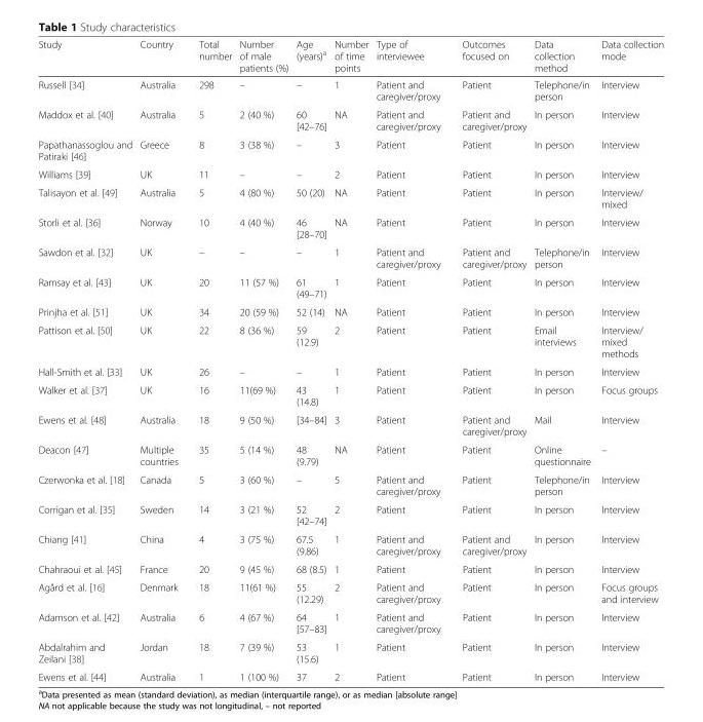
<table><thead><tr><td>Study</td><td>Country</td><td>Total number</td><td>Number of male patients (%)</td><td>Age (years)<sup>a</sup></td><td>Number of time points</td><td>Type of interviewee</td><td>Outcomes focused on</td><td>Data collection method</td><td>Data collection mode</td></tr></thead><tbody><tr><td>Russell [34]</td><td>Australia</td><td>298</td><td>–</td><td>–</td><td>1</td><td>Patient and caregiver/proxy</td><td>Patient</td><td>Telephone/in person</td><td>Interview</td></tr><tr><td>Maddox et al. [40]</td><td>Australia</td><td>5</td><td>2 (40 %)</td><td>60 [42–76]</td><td>NA</td><td>Patient and caregiver/proxy</td><td>Patient and caregiver/proxy</td><td>In person</td><td>Interview</td></tr><tr><td>Papathanassoglou and Patiraki [46]</td><td>Greece</td><td>8</td><td>3 (38 %)</td><td>–</td><td>3</td><td>Patient</td><td>Patient</td><td>In person</td><td>Interview</td></tr><tr><td>Williams [39]</td><td>UK</td><td>11</td><td>–</td><td>–</td><td>2</td><td>Patient</td><td>Patient</td><td>In person</td><td>Interview</td></tr><tr><td>Talisayon et al. [49]</td><td>Australia</td><td>5</td><td>4 (80 %)</td><td>50 (20)</td><td>NA</td><td>Patient</td><td>Patient</td><td>In person</td><td>Interview/ mixed</td></tr><tr><td>Storli et al. [36]</td><td>Norway</td><td>10</td><td>4 (40 %)</td><td>46 [28–70]</td><td>NA</td><td>Patient</td><td>Patient</td><td>In person</td><td>Interview</td></tr><tr><td>Sawdon et al. [32]</td><td>UK</td><td>–</td><td>–</td><td>–</td><td>1</td><td>Patient and caregiver/proxy</td><td>Patient and caregiver/proxy</td><td>Telephone/in person</td><td>Interview</td></tr><tr><td>Ramsay et al. [43]</td><td>UK</td><td>20</td><td>11 (57 %)</td><td>61 (49–71)</td><td>1</td><td>Patient</td><td>Patient</td><td>In person</td><td>Interview</td></tr><tr><td>Prinjha et al. [51]</td><td>UK</td><td>34</td><td>20 (59 %)</td><td>52 (14)</td><td>NA</td><td>Patient</td><td>Patient</td><td>In person</td><td>Interview</td></tr><tr><td>Pattison et al. [50]</td><td>UK</td><td>22</td><td>8 (36 %)</td><td>59 (12.9)</td><td>2</td><td>Patient</td><td>Patient</td><td>Email interviews</td><td>Interview/ mixed methods</td></tr><tr><td>Hall-Smith et al. [33]</td><td>UK</td><td>26</td><td>–</td><td>–</td><td>1</td><td>Patient</td><td>Patient</td><td>In person</td><td>Interview</td></tr><tr><td>Walker et al. [37]</td><td>UK</td><td>16</td><td>11(69 %)</td><td>43 (14.8)</td><td>1</td><td>Patient</td><td>Patient</td><td>In person</td><td>Focus groups</td></tr><tr><td>Ewens et al. [48]</td><td>Australia</td><td>18</td><td>9 (50 %)</td><td>[34–84]</td><td>3</td><td>Patient</td><td>Patient and caregiver/proxy</td><td>Mail</td><td>Interview</td></tr><tr><td>Deacon [47]</td><td>Multiple countries</td><td>35</td><td>5 (14 %)</td><td>48 (9.79)</td><td>NA</td><td>Patient</td><td>Patient</td><td>Online questionnaire</td><td>–</td></tr><tr><td>Czerwonka et al. [18]</td><td>Canada</td><td>5</td><td>3 (60 %)</td><td>–</td><td>5</td><td>Patient and caregiver/proxy</td><td>Patient</td><td>Telephone/in person</td><td>Interview</td></tr><tr><td>Corrigan et al. [35]</td><td>Sweden</td><td>14</td><td>3 (21 %)</td><td>52 [42–74]</td><td>2</td><td>Patient</td><td>Patient</td><td>In person</td><td>Interview</td></tr><tr><td>Chiang [41]</td><td>China</td><td>4</td><td>3 (75 %)</td><td>67.5 (9.86)</td><td>1</td><td>Patient and caregiver/proxy</td><td>Patient and caregiver/proxy</td><td>In person</td><td>Interview</td></tr><tr><td>Chahraoui et al. [45]</td><td>France</td><td>20</td><td>9 (45 %)</td><td>68 (8.5)</td><td>1</td><td>Patient</td><td>Patient</td><td>In person</td><td>Interview</td></tr><tr><td>Agård et al. [16]</td><td>Denmark</td><td>18</td><td>11(61 %)</td><td>55 (12.29)</td><td>2</td><td>Patient and caregiver/proxy</td><td>Patient</td><td>In person</td><td>Focus groups and interview</td></tr><tr><td>Adamson et al. [42]</td><td>Australia</td><td>6</td><td>4 (67 %)</td><td>64 [57–83]</td><td>1</td><td>Patient and caregiver/proxy</td><td>Patient</td><td>In person</td><td>Interview</td></tr><tr><td>Abdalrahim and Zeilani [38]</td><td>Jordan</td><td>18</td><td>7 (39 %)</td><td>53 (15.6)</td><td>1</td><td>Patient</td><td>Patient</td><td>In person</td><td>Interview</td></tr><tr><td>Ewens et al. [44]</td><td>Australia</td><td>1</td><td>1 (100 %)</td><td>37</td><td>2</td><td>Patient</td><td>Patient</td><td>In person</td><td>Interview</td></tr></tbody></table>